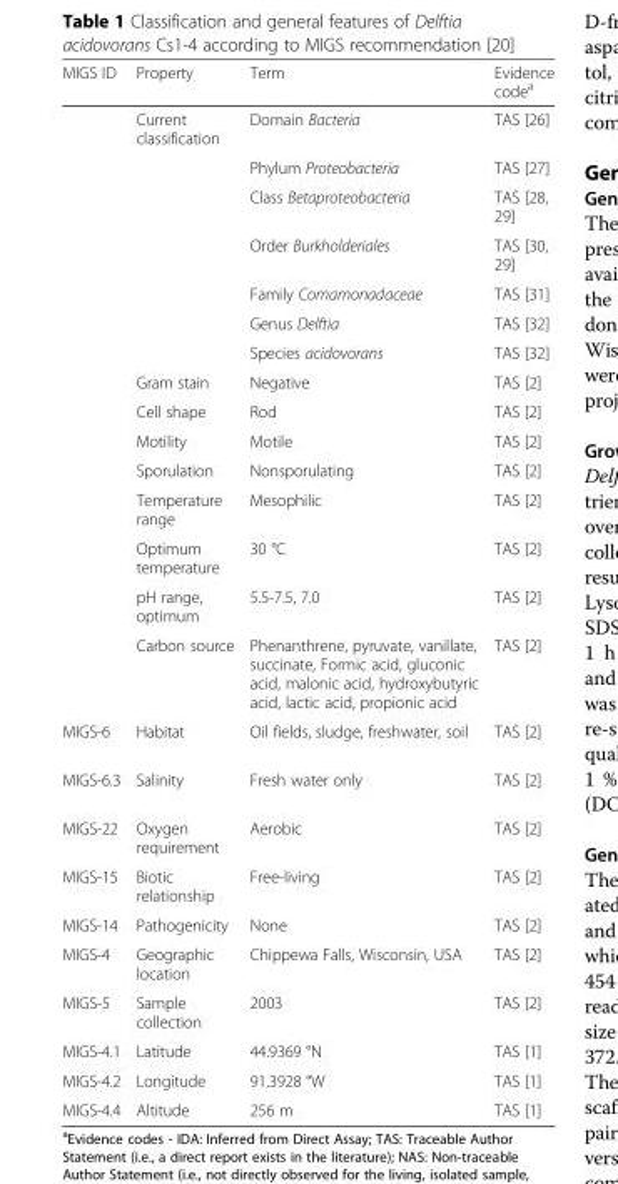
<table><thead><tr><td>MIGS ID</td><td>Property</td><td>Term</td><td>Evidence code<sup>a</sup></td></tr></thead><tbody><tr><td></td><td>Current classification</td><td>Domain Bacteria</td><td>TAS [26]</td></tr><tr><td></td><td></td><td>Phylum Proteobacteria</td><td>TAS [27]</td></tr><tr><td></td><td></td><td>Class Betaproteobacteria</td><td>TAS [28, 29]</td></tr><tr><td></td><td></td><td>Order Burkholderiales</td><td>TAS [30, 29]</td></tr><tr><td></td><td></td><td>Family Comamonadaceae</td><td>TAS [31]</td></tr><tr><td></td><td></td><td>Genus Delftia</td><td>TAS [32]</td></tr><tr><td></td><td></td><td>Species acidovorans</td><td>TAS [32]</td></tr><tr><td></td><td>Gram stain</td><td>Negative</td><td>TAS [2]</td></tr><tr><td></td><td>Cell shape</td><td>Rod</td><td>TAS [2]</td></tr><tr><td></td><td>Motility</td><td>Motile</td><td>TAS [2]</td></tr><tr><td></td><td>Sporulation</td><td>Nonsporulating</td><td>TAS [2]</td></tr><tr><td></td><td>Temperature range</td><td>Mesophilic</td><td>TAS [2]</td></tr><tr><td></td><td>Optimum temperature</td><td>30 °C</td><td>TAS [2]</td></tr><tr><td></td><td>pH range, optimum</td><td>5.5-7.5, 7.0</td><td>TAS [2]</td></tr><tr><td></td><td>Carbon source</td><td>Phenanthrene, pyruvate, vanillate, succinate, Formic acid, gluconic acid, malonic acid, hydroxybutyric acid, lactic acid, propionic acid</td><td>TAS [2]</td></tr><tr><td>MIGS-6</td><td>Habitat</td><td>Oil fields, sludge, freshwater, soil</td><td>TAS [2]</td></tr><tr><td>MIGS-6.3</td><td>Salinity</td><td>Fresh water only</td><td>TAS [2]</td></tr><tr><td>MIGS-22</td><td>Oxygen requirement</td><td>Aerobic</td><td>TAS [2]</td></tr><tr><td>MIGS-15</td><td>Biotic relationship</td><td>Free-living</td><td>TAS [2]</td></tr><tr><td>MIGS-14</td><td>Pathogenicity</td><td>None</td><td>TAS [2]</td></tr><tr><td>MIGS-4</td><td>Geographic location</td><td>Chippewa Falls, Wisconsin, USA</td><td>TAS [2]</td></tr><tr><td>MIGS-5</td><td>Sample collection</td><td>2003</td><td>TAS [2]</td></tr><tr><td>MIGS-4.1</td><td>Latitude</td><td>44.9369 °N</td><td>TAS [1]</td></tr><tr><td>MIGS-4.2</td><td>Longitude</td><td>91.3928 °W</td><td>TAS [1]</td></tr><tr><td>MIGS-4.4</td><td>Altitude</td><td>256 m</td><td>TAS [1]</td></tr></tbody></table>